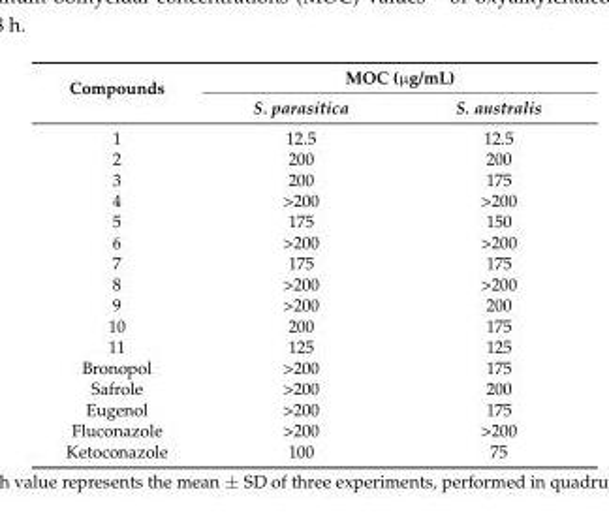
<table><thead><tr><td rowspan="2">Compounds</td><td colspan="2">MOC (µg/mL)</td></tr><tr><td>S. parasitica</td><td>S. australis</td></tr></thead><tbody><tr><td>1</td><td>12.5</td><td>12.5</td></tr><tr><td>2</td><td>200</td><td>200</td></tr><tr><td>3</td><td>200</td><td>175</td></tr><tr><td>4</td><td>&gt;200</td><td>&gt;200</td></tr><tr><td>5</td><td>175</td><td>150</td></tr><tr><td>6</td><td>&gt;200</td><td>&gt;200</td></tr><tr><td>7</td><td>175</td><td>175</td></tr><tr><td>8</td><td>&gt;200</td><td>&gt;200</td></tr><tr><td>9</td><td>&gt;200</td><td>200</td></tr><tr><td>10</td><td>200</td><td>175</td></tr><tr><td>11</td><td>125</td><td>125</td></tr><tr><td>Bronopol</td><td>&gt;200</td><td>175</td></tr><tr><td>Safrole</td><td>&gt;200</td><td>200</td></tr><tr><td>Eugenol</td><td>&gt;200</td><td>175</td></tr><tr><td>Fluconazole</td><td>&gt;200</td><td>&gt;200</td></tr><tr><td>Ketoconazole</td><td>100</td><td>75</td></tr></tbody></table>